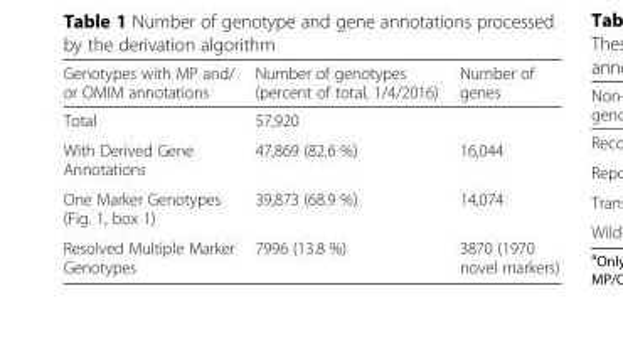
<table><thead><tr><td>Genotypes with MP and/ or OMIM annotations</td><td>Number of genotypes (percent of total, 1/4/2016)</td><td>Number of genes</td></tr></thead><tbody><tr><td>Total</td><td>57,920</td><td></td></tr><tr><td>With Derived Gene Annotations</td><td>47,869 (82.6 %)</td><td>16,044</td></tr><tr><td>One Marker Genotypes (Fig. 1, box 1)</td><td>39,873 (68.9 %)</td><td>14,074</td></tr><tr><td>Resolved Multiple Marker Genotypes</td><td>7996 (13.8 %)</td><td>3870 (1970 novel markers)</td></tr></tbody></table>